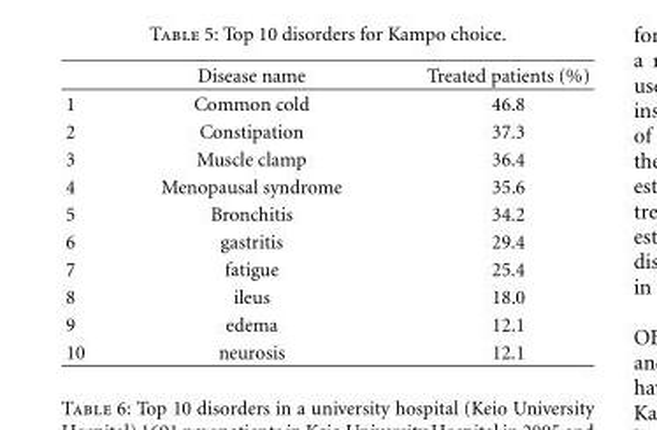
<table><thead><tr><td></td><td>Disease name</td><td>Treated patients (%)</td></tr></thead><tbody><tr><td>1</td><td>Common cold</td><td>46.8</td></tr><tr><td>2</td><td>Constipation</td><td>37.3</td></tr><tr><td>3</td><td>Muscle clamp</td><td>36.4</td></tr><tr><td>4</td><td>Menopausal syndrome</td><td>35.6</td></tr><tr><td>5</td><td>Bronchitis</td><td>34.2</td></tr><tr><td>6</td><td>gastritis</td><td>29.4</td></tr><tr><td>7</td><td>fatigue</td><td>25.4</td></tr><tr><td>8</td><td>ileus</td><td>18.0</td></tr><tr><td>9</td><td>edema</td><td>12.1</td></tr><tr><td>10</td><td>neurosis</td><td>12.1</td></tr></tbody></table>